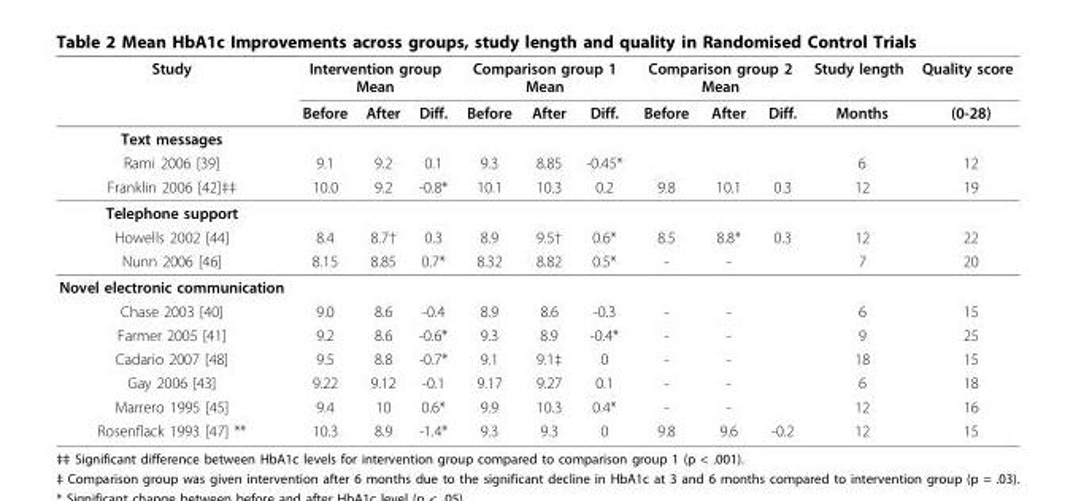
<table><thead><tr><td rowspan="2">Study</td><td colspan="3">Intervention group Mean</td><td colspan="3">Comparison group 1 Mean</td><td colspan="3">Comparison group 2 Mean</td><td rowspan="2">Study length Months</td><td rowspan="2">Quality score (0-28)</td></tr><tr><td>Before</td><td>After</td><td>Diff.</td><td>Before</td><td>After</td><td>Diff.</td><td>Before</td><td>After</td><td>Diff.</td></tr></thead><tbody><tr><td colspan="12">Text messages</td></tr><tr><td>Rami 2006 [39]</td><td>9.1</td><td>9.2</td><td>0.1</td><td>9.3</td><td>8.85</td><td>-0.45*</td><td></td><td></td><td></td><td>6</td><td>12</td></tr><tr><td>Franklin 2006 [42]‡‡</td><td>10.0</td><td>9.2</td><td>-0.8*</td><td>10.1</td><td>10.3</td><td>0.2</td><td>9.8</td><td>10.1</td><td>0.3</td><td>12</td><td>19</td></tr><tr><td colspan="12">Telephone support</td></tr><tr><td>Howells 2002 [44]</td><td>8.4</td><td>8.7†</td><td>0.3</td><td>8.9</td><td>9.5†</td><td>0.6*</td><td>8.5</td><td>8.8*</td><td>0.3</td><td>12</td><td>22</td></tr><tr><td>Nunn 2006 [46]</td><td>8.15</td><td>8.85</td><td>0.7*</td><td>8.32</td><td>8.82</td><td>0.5*</td><td>-</td><td>-</td><td></td><td>7</td><td>20</td></tr><tr><td colspan="12">Novel electronic communication</td></tr><tr><td>Chase 2003 [40]</td><td>9.0</td><td>8.6</td><td>-0.4</td><td>8.9</td><td>8.6</td><td>-0.3</td><td>-</td><td>-</td><td></td><td>6</td><td>15</td></tr><tr><td>Farmer 2005 [41]</td><td>9.2</td><td>8.6</td><td>-0.6*</td><td>9.3</td><td>8.9</td><td>-0.4*</td><td>-</td><td>-</td><td></td><td>9</td><td>25</td></tr><tr><td>Cadario 2007 [48]</td><td>9.5</td><td>8.8</td><td>-0.7*</td><td>9.1</td><td>9.1‡</td><td>0</td><td>-</td><td>-</td><td></td><td>18</td><td>15</td></tr><tr><td>Gay 2006 [43]</td><td>9.22</td><td>9.12</td><td>-0.1</td><td>9.17</td><td>9.27</td><td>0.1</td><td>-</td><td>-</td><td></td><td>6</td><td>18</td></tr><tr><td>Marrero 1995 [45]</td><td>9.4</td><td>10</td><td>0.6*</td><td>9.9</td><td>10.3</td><td>0.4*</td><td>-</td><td>-</td><td></td><td>12</td><td>16</td></tr><tr><td>Rosenflack 1993 [47] **</td><td>10.3</td><td>8.9</td><td>-1.4*</td><td>9.3</td><td>9.3</td><td>0</td><td>9.8</td><td>9.6</td><td>-0.2</td><td>12</td><td>15</td></tr></tbody></table>